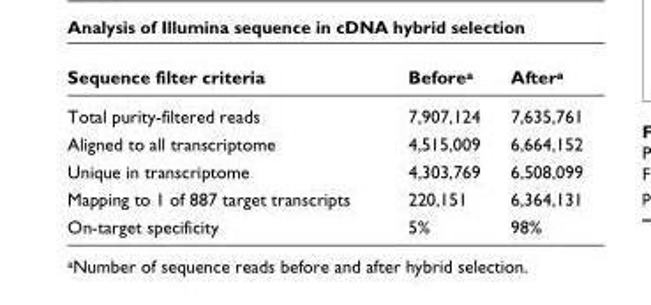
<table><thead><tr><td>Sequence filter criteria</td><td>Before<sup>a</sup></td><td>After<sup>a</sup></td></tr></thead><tbody><tr><td>Total purity-filtered reads</td><td>7,907,124</td><td>7,635,761</td></tr><tr><td>Aligned to all transcriptome</td><td>4,515,009</td><td>6,664,152</td></tr><tr><td>Unique in transcriptome</td><td>4,303,769</td><td>6,508,099</td></tr><tr><td>Mapping to 1 of 887 target transcripts</td><td>220,151</td><td>6,364,131</td></tr><tr><td>On-target specificity</td><td>5%</td><td>98%</td></tr></tbody></table>